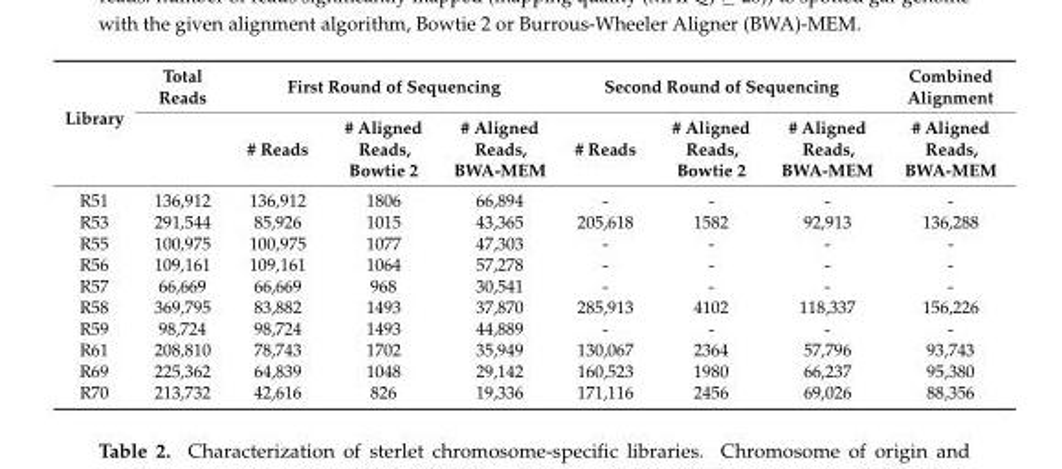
<table><thead><tr><td rowspan="2">Library</td><td rowspan="2">Total Reads</td><td colspan="3">First Round of Sequencing</td><td colspan="3">Second Round of Sequencing</td><td rowspan="2">Combined Alignment # Aligned Reads, BWA-MEM</td></tr><tr><td># Reads</td><td># Aligned Reads, Bowtie 2</td><td># Aligned Reads, BWA-MEM</td><td># Reads</td><td># Aligned Reads, Bowtie 2</td><td># Aligned Reads, BWA-MEM</td></tr></thead><tbody><tr><td>R51</td><td>136,912</td><td>136,912</td><td>1806</td><td>66,894</td><td>-</td><td>-</td><td>-</td><td>-</td></tr><tr><td>R53</td><td>291,544</td><td>85,926</td><td>1015</td><td>43,365</td><td>205,618</td><td>1582</td><td>92,913</td><td>136,288</td></tr><tr><td>R55</td><td>100,975</td><td>100,975</td><td>1077</td><td>47,303</td><td>-</td><td>-</td><td>-</td><td>-</td></tr><tr><td>R56</td><td>109,161</td><td>109,161</td><td>1064</td><td>57,278</td><td>-</td><td>-</td><td>-</td><td>-</td></tr><tr><td>R57</td><td>66,669</td><td>66,669</td><td>968</td><td>30,541</td><td>-</td><td>-</td><td>-</td><td>-</td></tr><tr><td>R58</td><td>369,795</td><td>83,882</td><td>1493</td><td>37,870</td><td>285,913</td><td>4102</td><td>118,337</td><td>156,226</td></tr><tr><td>R59</td><td>98,724</td><td>98,724</td><td>1493</td><td>44,889</td><td>-</td><td>-</td><td>-</td><td>-</td></tr><tr><td>R61</td><td>208,810</td><td>78,743</td><td>1702</td><td>35,949</td><td>130,067</td><td>2364</td><td>57,796</td><td>93,743</td></tr><tr><td>R69</td><td>225,362</td><td>64,839</td><td>1048</td><td>29,142</td><td>160,523</td><td>1980</td><td>66,237</td><td>95,380</td></tr><tr><td>R70</td><td>213,732</td><td>42,616</td><td>826</td><td>19,336</td><td>171,116</td><td>2456</td><td>69,026</td><td>88,356</td></tr></tbody></table>